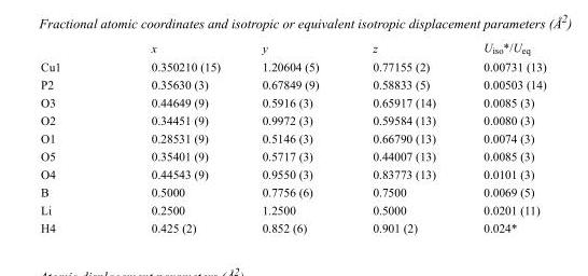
<table><thead><tr><td></td><td>x</td><td>y</td><td>z</td><td>U<sub>iso</sub>*/U<sub>eq</sub></td></tr></thead><tbody><tr><td>Cu1</td><td>0.350210 (15)</td><td>1.20604 (5)</td><td>0.77155 (2)</td><td>0.00731 (13)</td></tr><tr><td>P2</td><td>0.35630 (3)</td><td>0.67849 (9)</td><td>0.58833 (5)</td><td>0.00503 (14)</td></tr><tr><td>O3</td><td>0.44649 (9)</td><td>0.5916 (3)</td><td>0.65917 (14)</td><td>0.0085 (3)</td></tr><tr><td>O2</td><td>0.34451 (9)</td><td>0.9972 (3)</td><td>0.59584 (13)</td><td>0.0080 (3)</td></tr><tr><td>O1</td><td>0.28531 (9)</td><td>0.5146 (3)</td><td>0.66790 (13)</td><td>0.0074 (3)</td></tr><tr><td>O5</td><td>0.35401 (9)</td><td>0.5717 (3)</td><td>0.44007 (13)</td><td>0.0085 (3)</td></tr><tr><td>O4</td><td>0.44543 (9)</td><td>0.9550 (3)</td><td>0.83773 (13)</td><td>0.0101 (3)</td></tr><tr><td>B</td><td>0.5000</td><td>0.7756 (6)</td><td>0.7500</td><td>0.0069 (5)</td></tr><tr><td>Li</td><td>0.2500</td><td>1.2500</td><td>0.5000</td><td>0.0201 (11)</td></tr><tr><td>H4</td><td>0.425 (2)</td><td>0.852 (6)</td><td>0.901 (2)</td><td>0.024*</td></tr></tbody></table>